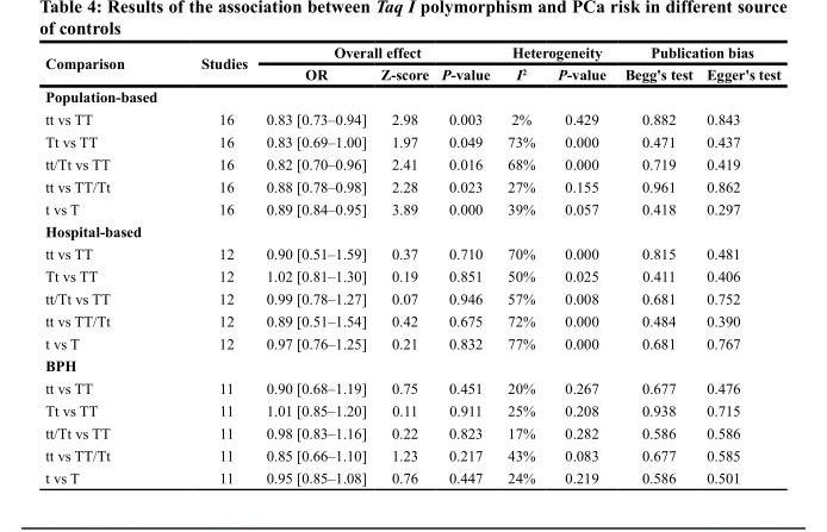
<table><thead><tr><td rowspan="2">Comparison</td><td rowspan="2">Studies</td><td colspan="3">Overall effect</td><td colspan="2">Heterogeneity</td><td colspan="2">Publication bias</td></tr><tr><td>OR</td><td>Z-score</td><td>P-value</td><td>I<sup>2</sup></td><td>P-value</td><td>Begg&#x27;s test</td><td>Egger&#x27;s test</td></tr></thead><tbody><tr><td colspan="9">Population-based</td></tr><tr><td>tt vs TT</td><td>16</td><td>0.83 [0.73–0.94]</td><td>2.98</td><td>0.003</td><td>2%</td><td>0.429</td><td>0.882</td><td>0.843</td></tr><tr><td>Tt vs TT</td><td>16</td><td>0.83 [0.69–1.00]</td><td>1.97</td><td>0.049</td><td>73%</td><td>0.000</td><td>0.471</td><td>0.437</td></tr><tr><td>tt/Tt vs TT</td><td>16</td><td>0.82 [0.70–0.96]</td><td>2.41</td><td>0.016</td><td>68%</td><td>0.000</td><td>0.719</td><td>0.419</td></tr><tr><td>tt vs TT/Tt</td><td>16</td><td>0.88 [0.78–0.98]</td><td>2.28</td><td>0.023</td><td>27%</td><td>0.155</td><td>0.961</td><td>0.862</td></tr><tr><td>t vs T</td><td>16</td><td>0.89 [0.84–0.95]</td><td>3.89</td><td>0.000</td><td>39%</td><td>0.057</td><td>0.418</td><td>0.297</td></tr><tr><td colspan="9">Hospital-based</td></tr><tr><td>tt vs TT</td><td>12</td><td>0.90 [0.51–1.59]</td><td>0.37</td><td>0.710</td><td>70%</td><td>0.000</td><td>0.815</td><td>0.481</td></tr><tr><td>Tt vs TT</td><td>12</td><td>1.02 [0.81–1.30]</td><td>0.19</td><td>0.851</td><td>50%</td><td>0.025</td><td>0.411</td><td>0.406</td></tr><tr><td>tt/Tt vs TT</td><td>12</td><td>0.99 [0.78–1.27]</td><td>0.07</td><td>0.946</td><td>57%</td><td>0.008</td><td>0.681</td><td>0.752</td></tr><tr><td>tt vs TT/Tt</td><td>12</td><td>0.89 [0.51–1.54]</td><td>0.42</td><td>0.675</td><td>72%</td><td>0.000</td><td>0.484</td><td>0.390</td></tr><tr><td>t vs T</td><td>12</td><td>0.97 [0.76–1.25]</td><td>0.21</td><td>0.832</td><td>77%</td><td>0.000</td><td>0.681</td><td>0.767</td></tr><tr><td colspan="9">BPH</td></tr><tr><td>tt vs TT</td><td>11</td><td>0.90 [0.68–1.19]</td><td>0.75</td><td>0.451</td><td>20%</td><td>0.267</td><td>0.677</td><td>0.476</td></tr><tr><td>Tt vs TT</td><td>11</td><td>1.01 [0.85–1.20]</td><td>0.11</td><td>0.911</td><td>25%</td><td>0.208</td><td>0.938</td><td>0.715</td></tr><tr><td>tt/Tt vs TT</td><td>11</td><td>0.98 [0.83–1.16]</td><td>0.22</td><td>0.823</td><td>17%</td><td>0.282</td><td>0.586</td><td>0.586</td></tr><tr><td>tt vs TT/Tt</td><td>11</td><td>0.85 [0.66–1.10]</td><td>1.23</td><td>0.217</td><td>43%</td><td>0.083</td><td>0.677</td><td>0.585</td></tr><tr><td>t vs T</td><td>11</td><td>0.95 [0.85–1.08]</td><td>0.76</td><td>0.447</td><td>24%</td><td>0.219</td><td>0.586</td><td>0.501</td></tr></tbody></table>